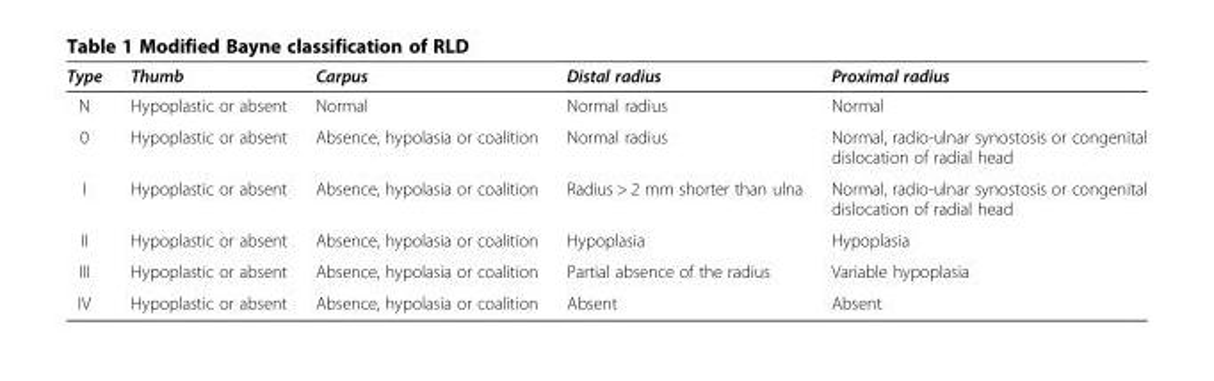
<table><thead><tr><td>Type</td><td>Thumb</td><td>Carpus</td><td>Distal radius</td><td>Proximal radius</td></tr></thead><tbody><tr><td>N</td><td>Hypoplastic or absent</td><td>Normal</td><td>Normal radius</td><td>Normal</td></tr><tr><td>0</td><td>Hypoplastic or absent</td><td>Absence, hypolasia or coalition</td><td>Normal radius</td><td>Normal, radio-ulnar synostosis or congenital dislocation of radial head</td></tr><tr><td>I</td><td>Hypoplastic or absent</td><td>Absence, hypolasia or coalition</td><td>Radius &gt; 2 mm shorter than ulna</td><td>Normal, radio-ulnar synostosis or congenital dislocation of radial head</td></tr><tr><td>II</td><td>Hypoplastic or absent</td><td>Absence, hypolasia or coalition</td><td>Hypoplasia</td><td>Hypoplasia</td></tr><tr><td>III</td><td>Hypoplastic or absent</td><td>Absence, hypolasia or coalition</td><td>Partial absence of the radius</td><td>Variable hypoplasia</td></tr><tr><td>IV</td><td>Hypoplastic or absent</td><td>Absence, hypolasia or coalition</td><td>Absent</td><td>Absent</td></tr></tbody></table>